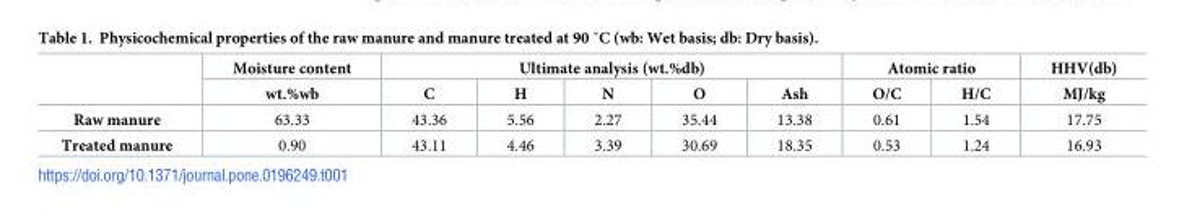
<table><thead><tr><td rowspan="2"></td><td rowspan="2">Moisture content wt.%wb</td><td colspan="5">Ultimate analysis (wt.%db)</td><td colspan="2">Atomic ratio</td><td rowspan="2">HHV(db) MJ/kg</td></tr><tr><td>C</td><td>H</td><td>N</td><td>O</td><td>Ash</td><td>O/C</td><td>H/C</td></tr></thead><tbody><tr><td>Raw manure</td><td>63.33</td><td>43.36</td><td>5.56</td><td>2.27</td><td>35.44</td><td>13.38</td><td>0.61</td><td>1.54</td><td>17.75</td></tr><tr><td>Treated manure</td><td>0.90</td><td>43.11</td><td>4.46</td><td>3.39</td><td>30.69</td><td>18.35</td><td>0.53</td><td>1.24</td><td>16.93</td></tr></tbody></table>